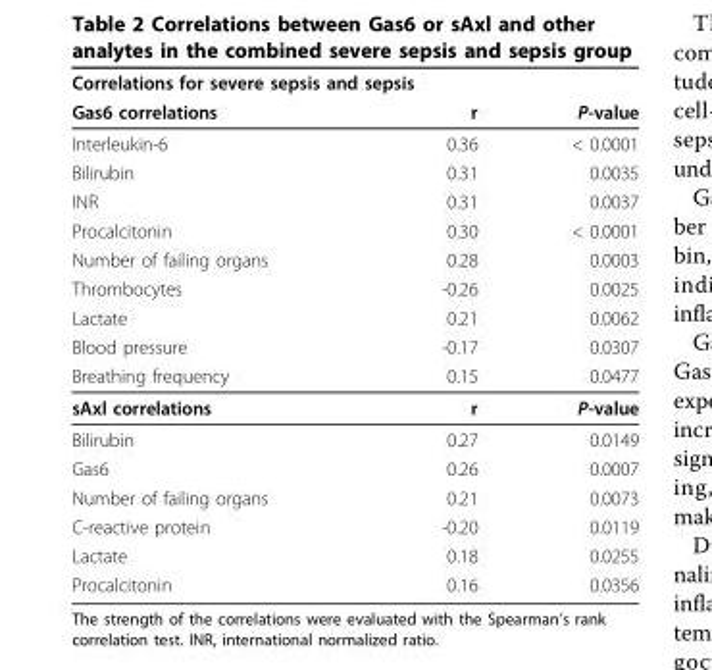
<table><thead><tr><td colspan="3">Correlations for severe sepsis and sepsis</td></tr><tr><td>Gas6 correlations</td><td>r</td><td>P-value</td></tr></thead><tbody><tr><td>Interleukin-6</td><td>0.36</td><td>&lt; 0.0001</td></tr><tr><td>Bilirubin</td><td>0.31</td><td>0.0035</td></tr><tr><td>INR</td><td>0.31</td><td>0.0037</td></tr><tr><td>Procalcitonin</td><td>0.30</td><td>&lt; 0.0001</td></tr><tr><td>Number of failing organs</td><td>0.28</td><td>0.0003</td></tr><tr><td>Thrombocytes</td><td>-0.26</td><td>0.0025</td></tr><tr><td>Lactate</td><td>0.21</td><td>0.0062</td></tr><tr><td>Blood pressure</td><td>-0.17</td><td>0.0307</td></tr><tr><td>Breathing frequency</td><td>0.15</td><td>0.0477</td></tr><tr><td>sAxl correlations</td><td>r</td><td>P-value</td></tr><tr><td>Bilirubin</td><td>0.27</td><td>0.0149</td></tr><tr><td>Gas6</td><td>0.26</td><td>0.0007</td></tr><tr><td>Number of failing organs</td><td>0.21</td><td>0.0073</td></tr><tr><td>C-reactive protein</td><td>-0.20</td><td>0.0119</td></tr><tr><td>Lactate</td><td>0.18</td><td>0.0255</td></tr><tr><td>Procalcitonin</td><td>0.16</td><td>0.0356</td></tr></tbody></table>